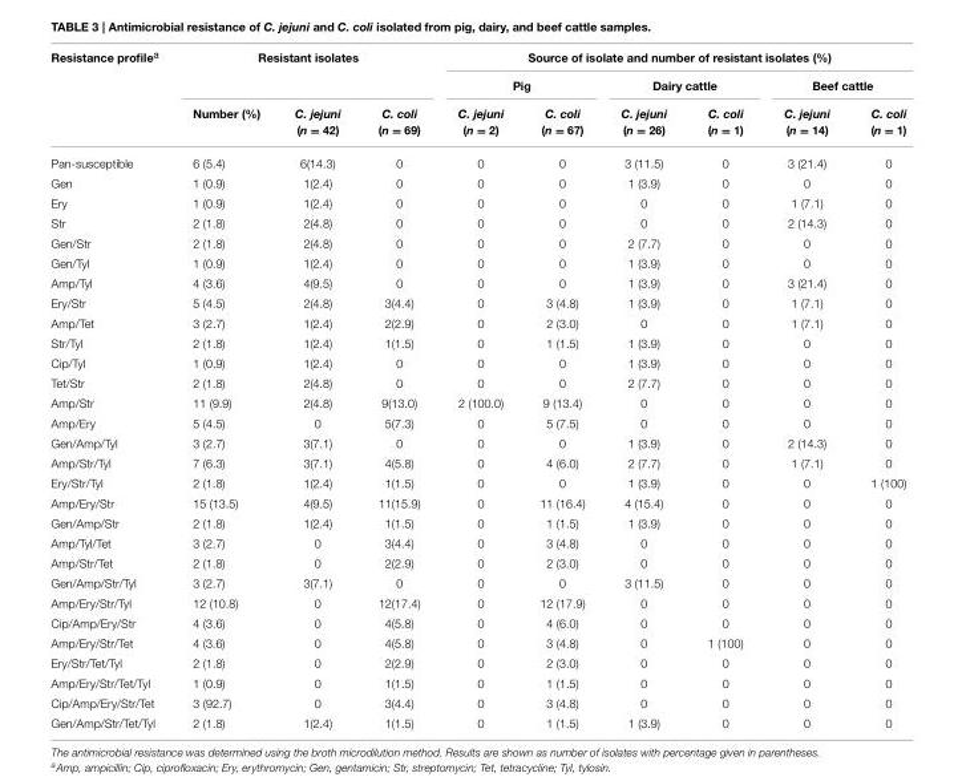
<table><thead><tr><td rowspan="3">Resistance profile<sup>a</sup></td><td colspan="3">Resistant isolates</td><td colspan="6">Source of isolate and number of resistant isolates (%)</td></tr><tr><td rowspan="2">Number (%)</td><td rowspan="2">C. jejuni (n = 42)</td><td rowspan="2">C. coli (n = 69)</td><td colspan="2">Pig</td><td colspan="2">Dairy cattle</td><td colspan="2">Beef cattle</td></tr><tr><td>C. jejuni (n = 2)</td><td>C. coli (n = 67)</td><td>C. jejuni (n = 26)</td><td>C. coli (n = 1)</td><td>C. jejuni (n = 14)</td><td>C. coli (n = 1)</td></tr></thead><tbody><tr><td>Pan-susceptible</td><td>6 (5.4)</td><td>6(14.3)</td><td>0</td><td>0</td><td>0</td><td>3 (11.5)</td><td>0</td><td>3 (21.4)</td><td>0</td></tr><tr><td>Gen</td><td>1 (0.9)</td><td>1(2.4)</td><td>0</td><td>0</td><td>0</td><td>1 (3.9)</td><td>0</td><td>0</td><td>0</td></tr><tr><td>Ery</td><td>1 (0.9)</td><td>1(2.4)</td><td>0</td><td>0</td><td>0</td><td>0</td><td>0</td><td>1 (7.1)</td><td>0</td></tr><tr><td>Str</td><td>2 (1.8)</td><td>2(4.8)</td><td>0</td><td>0</td><td>0</td><td>0</td><td>0</td><td>2 (14.3)</td><td>0</td></tr><tr><td>Gen/Str</td><td>2 (1.8)</td><td>2(4.8)</td><td>0</td><td>0</td><td>0</td><td>2 (7.7)</td><td>0</td><td>0</td><td>0</td></tr><tr><td>Gen/Tyl</td><td>1 (0.9)</td><td>1(2.4)</td><td>0</td><td>0</td><td>0</td><td>1 (3.9)</td><td>0</td><td>0</td><td>0</td></tr><tr><td>Amp/Tyl</td><td>4 (3.6)</td><td>4(9.5)</td><td>0</td><td>0</td><td>0</td><td>1 (3.9)</td><td>0</td><td>3 (21.4)</td><td>0</td></tr><tr><td>Ery/Str</td><td>5 (4.5)</td><td>2(4.8)</td><td>3(4.4)</td><td>0</td><td>3 (4.8)</td><td>1 (3.9)</td><td>0</td><td>1 (7.1)</td><td>0</td></tr><tr><td>Amp/Tet</td><td>3 (2.7)</td><td>1(2.4)</td><td>2(2.9)</td><td>0</td><td>2 (3.0)</td><td>0</td><td>0</td><td>1 (7.1)</td><td>0</td></tr><tr><td>Str/Tyl</td><td>2 (1.8)</td><td>1(2.4)</td><td>1(1.5)</td><td>0</td><td>1 (1.5)</td><td>1 (3.9)</td><td>0</td><td>0</td><td>0</td></tr><tr><td>Cip/Tyl</td><td>1 (0.9)</td><td>1(2.4)</td><td>0</td><td>0</td><td>0</td><td>1 (3.9)</td><td>0</td><td>0</td><td>0</td></tr><tr><td>Tet/Str</td><td>2 (1.8)</td><td>2(4.8)</td><td>0</td><td>0</td><td>0</td><td>2 (7.7)</td><td>0</td><td>0</td><td>0</td></tr><tr><td>Amp/Str</td><td>11 (9.9)</td><td>2(4.8)</td><td>9(13.0)</td><td>2 (100.0)</td><td>9 (13.4)</td><td>0</td><td>0</td><td>0</td><td>0</td></tr><tr><td>Amp/Ery</td><td>5 (4.5)</td><td>0</td><td>5(7.3)</td><td>0</td><td>5 (7.5)</td><td>0</td><td>0</td><td>0</td><td>0</td></tr><tr><td>Gen/Amp/Tyl</td><td>3 (2.7)</td><td>3(7.1)</td><td>0</td><td>0</td><td>0</td><td>1 (3.9)</td><td>0</td><td>2 (14.3)</td><td>0</td></tr><tr><td>Amp/Str/Tyl</td><td>7 (6.3)</td><td>3(7.1)</td><td>4(5.8)</td><td>0</td><td>4 (6.0)</td><td>2 (7.7)</td><td>0</td><td>1 (7.1)</td><td>0</td></tr><tr><td>Ery/Str/Tyl</td><td>2 (1.8)</td><td>1(2.4)</td><td>1(1.5)</td><td>0</td><td>0</td><td>1 (3.9)</td><td>0</td><td>0</td><td>1 (100)</td></tr><tr><td>Amp/Ery/Str</td><td>15 (13.5)</td><td>4(9.5)</td><td>11(15.9)</td><td>0</td><td>11 (16.4)</td><td>4 (15.4)</td><td>0</td><td>0</td><td>0</td></tr><tr><td>Gen/Amp/Str</td><td>2 (1.8)</td><td>1(2.4)</td><td>1(1.5)</td><td>0</td><td>1 (1.5)</td><td>1 (3.9)</td><td>0</td><td>0</td><td>0</td></tr><tr><td>Amp/Tyl/Tet</td><td>3 (2.7)</td><td>0</td><td>3(4.4)</td><td>0</td><td>3 (4.8)</td><td>0</td><td>0</td><td>0</td><td>0</td></tr><tr><td>Amp/Str/Tet</td><td>2 (1.8)</td><td>0</td><td>2(2.9)</td><td>0</td><td>2 (3.0)</td><td>0</td><td>0</td><td>0</td><td>0</td></tr><tr><td>Gen/Amp/Str/Tyl</td><td>3 (2.7)</td><td>3(7.1)</td><td>0</td><td>0</td><td>0</td><td>3 (11.5)</td><td>0</td><td>0</td><td>0</td></tr><tr><td>Amp/Ery/Str/Tyl</td><td>12 (10.8)</td><td>0</td><td>12(17.4)</td><td>0</td><td>12 (17.9)</td><td>0</td><td>0</td><td>0</td><td>0</td></tr><tr><td>Cip/Amp/Ery/Str</td><td>4 (3.6)</td><td>0</td><td>4(5.8)</td><td>0</td><td>4 (6.0)</td><td>0</td><td>0</td><td>0</td><td>0</td></tr><tr><td>Amp/Ery/Str/Tet</td><td>4 (3.6)</td><td>0</td><td>4(5.8)</td><td>0</td><td>3 (4.8)</td><td>0</td><td>1 (100)</td><td>0</td><td>0</td></tr><tr><td>Ery/Str/Tet/Tyl</td><td>2 (1.8)</td><td>0</td><td>2(2.9)</td><td>0</td><td>2 (3.0)</td><td>0</td><td>0</td><td>0</td><td>0</td></tr><tr><td>Amp/Ery/Str/Tet/Tyl</td><td>1 (0.9)</td><td>0</td><td>1(1.5)</td><td>0</td><td>1 (1.5)</td><td>0</td><td>0</td><td>0</td><td>0</td></tr><tr><td>Cip/Amp/Ery/Str/Tet</td><td>3 (92.7)</td><td>0</td><td>3(4.4)</td><td>0</td><td>3 (4.8)</td><td>0</td><td>0</td><td>0</td><td>0</td></tr><tr><td>Gen/Amp/Str/Tet/Tyl</td><td>2 (1.8)</td><td>1(2.4)</td><td>1(1.5)</td><td>0</td><td>1 (1.5)</td><td>1 (3.9)</td><td>0</td><td>0</td><td>0</td></tr></tbody></table>